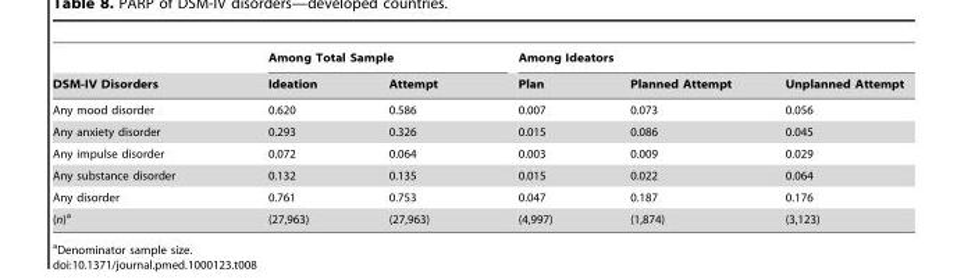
<table><thead><tr><td rowspan="2">DSM-IV Disorders</td><td colspan="2">Among Total Sample</td><td colspan="3">Among Ideators</td></tr><tr><td>Ideation</td><td>Attempt</td><td>Plan</td><td>Planned Attempt</td><td>Unplanned Attempt</td></tr></thead><tbody><tr><td>Any mood disorder</td><td>0.620</td><td>0.586</td><td>0.007</td><td>0.073</td><td>0.056</td></tr><tr><td>Any anxiety disorder</td><td>0.293</td><td>0.326</td><td>0.015</td><td>0.086</td><td>0.045</td></tr><tr><td>Any impulse disorder</td><td>0.072</td><td>0.064</td><td>0.003</td><td>0.009</td><td>0.029</td></tr><tr><td>Any substance disorder</td><td>0.132</td><td>0.135</td><td>0.015</td><td>0.022</td><td>0.064</td></tr><tr><td>Any disorder</td><td>0.761</td><td>0.753</td><td>0.047</td><td>0.187</td><td>0.176</td></tr><tr><td>(n)<sup>a</sup></td><td>(27,963)</td><td>(27,963)</td><td>(4,997)</td><td>(1,874)</td><td>(3,123)</td></tr></tbody></table>